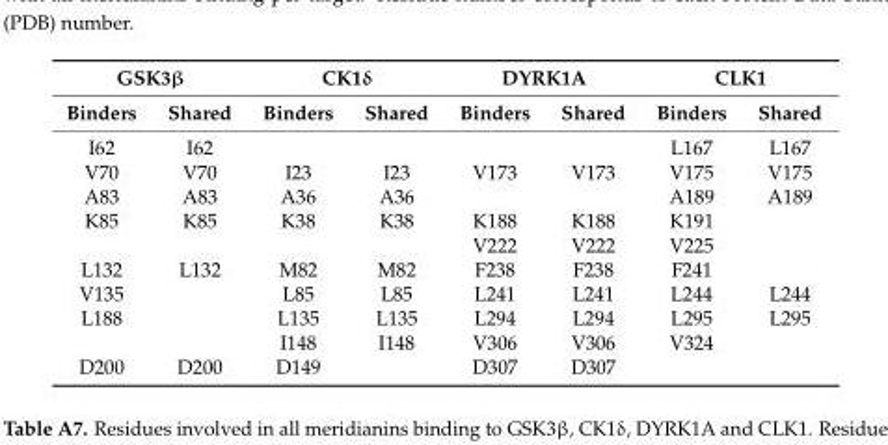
<table><thead><tr><td colspan="2">GSK3β</td><td colspan="2">CK1δ</td><td colspan="2">DYRK1A</td><td colspan="2">CLK1</td></tr><tr><td>Binders</td><td>Shared</td><td>Binders</td><td>Shared</td><td>Binders</td><td>Shared</td><td>Binders</td><td>Shared</td></tr></thead><tbody><tr><td>I62</td><td>I62</td><td></td><td></td><td></td><td></td><td>L167</td><td>L167</td></tr><tr><td>V70</td><td>V70</td><td>I23</td><td>I23</td><td>V173</td><td>V173</td><td>V175</td><td>V175</td></tr><tr><td>A83</td><td>A83</td><td>A36</td><td>A36</td><td></td><td></td><td>A189</td><td>A189</td></tr><tr><td rowspan="2">K85</td><td>K85</td><td>K38</td><td>K38</td><td>K188</td><td>K188</td><td>K191</td><td></td></tr><tr><td></td><td></td><td></td><td>V222</td><td>V222</td><td>V225</td><td></td></tr><tr><td>L132</td><td>L132</td><td>M82</td><td>M82</td><td>F238</td><td>F238</td><td>F241</td><td></td></tr><tr><td>V135</td><td></td><td>L85</td><td>L85</td><td>L241</td><td>L241</td><td>L244</td><td>L244</td></tr><tr><td rowspan="2">L188</td><td></td><td>L135</td><td>L135</td><td>L294</td><td>L294</td><td>L295</td><td>L295</td></tr><tr><td></td><td>I148</td><td>I148</td><td>V306</td><td>V306</td><td>V324</td><td></td></tr><tr><td>D200</td><td>D200</td><td>D149</td><td></td><td>D307</td><td>D307</td><td></td><td></td></tr></tbody></table>